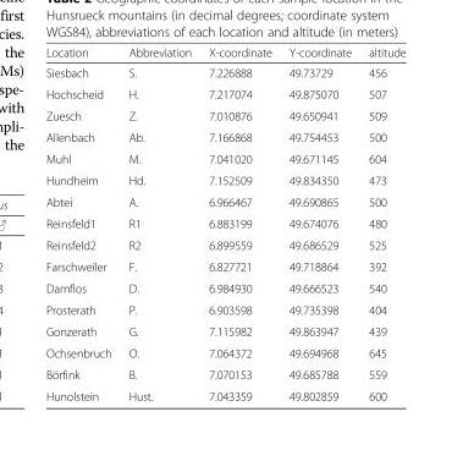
<table><thead><tr><td>Location</td><td>Abbreviation</td><td>X-coordinate</td><td>Y-coordinate</td><td>altitude</td></tr></thead><tbody><tr><td>Siesbach</td><td>S.</td><td>7.226888</td><td>49.73729</td><td>456</td></tr><tr><td>Hochscheid</td><td>H.</td><td>7.217074</td><td>49.875070</td><td>507</td></tr><tr><td>Zuesch</td><td>Z.</td><td>7.010876</td><td>49.650941</td><td>509</td></tr><tr><td>Allenbach</td><td>Ab.</td><td>7.166868</td><td>49.754453</td><td>500</td></tr><tr><td>Muhl</td><td>M.</td><td>7.041020</td><td>49.671145</td><td>604</td></tr><tr><td>Hundheim</td><td>Hd.</td><td>7.152509</td><td>49.834350</td><td>473</td></tr><tr><td>Abtei</td><td>A.</td><td>6.966467</td><td>49.690865</td><td>500</td></tr><tr><td>Reinsfeld1</td><td>R1</td><td>6.883199</td><td>49.674076</td><td>480</td></tr><tr><td>Reinsfeld2</td><td>R2</td><td>6.899559</td><td>49.686529</td><td>525</td></tr><tr><td>Farschweiler</td><td>F.</td><td>6.827721</td><td>49.718864</td><td>392</td></tr><tr><td>Damflos</td><td>D.</td><td>6.984930</td><td>49.666523</td><td>540</td></tr><tr><td>Prosterath</td><td>P.</td><td>6.903598</td><td>49.735398</td><td>404</td></tr><tr><td>Gonzerath</td><td>G.</td><td>7.115982</td><td>49.863947</td><td>439</td></tr><tr><td>Ochsenbruch</td><td>O.</td><td>7.064372</td><td>49.694968</td><td>645</td></tr><tr><td>Börfink</td><td>B.</td><td>7.070153</td><td>49.685788</td><td>559</td></tr><tr><td>Hunolstein</td><td>Hust.</td><td>7.043359</td><td>49.802859</td><td>600</td></tr></tbody></table>